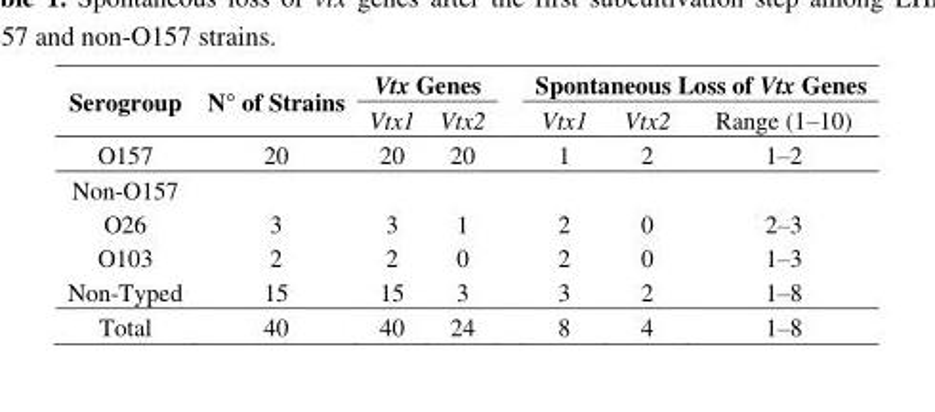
<table><tbody><tr><td rowspan="2">Serogroup</td><td rowspan="2">N° of Strains</td><td colspan="2">Vtx Genes</td><td colspan="3">Spontaneous Loss of Vtx Genes</td></tr><tr><td>Vtx1</td><td>Vtx2</td><td>Vtx1</td><td>Vtx2</td><td>Range (1–10)</td></tr><tr><td>O157</td><td>20</td><td>20</td><td>20</td><td>1</td><td>2</td><td>1–2</td></tr><tr><td colspan="7">Non-O157</td></tr><tr><td>O26</td><td>3</td><td>3</td><td>1</td><td>2</td><td>0</td><td>2–3</td></tr><tr><td>O103</td><td>2</td><td>2</td><td>0</td><td>2</td><td>0</td><td>1–3</td></tr><tr><td>Non-Typed</td><td>15</td><td>15</td><td>3</td><td>3</td><td>2</td><td>1–8</td></tr><tr><td>Total</td><td>40</td><td>40</td><td>24</td><td>8</td><td>4</td><td>1–8</td></tr></tbody></table>